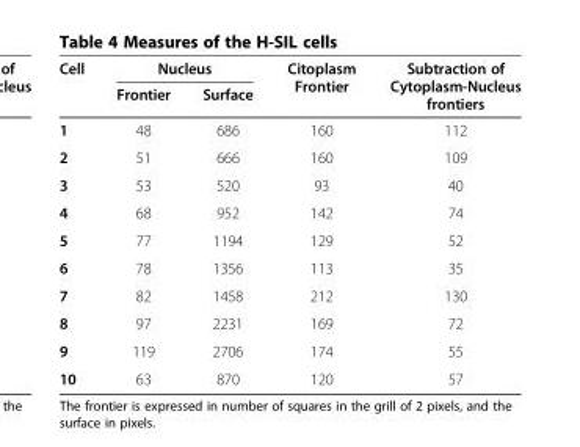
<table><thead><tr><td rowspan="2">Cell</td><td colspan="2">Nucleus</td><td rowspan="2">Citoplasm Frontier</td><td rowspan="2">Subtraction of Cytoplasm-Nucleus frontiers</td></tr><tr><td>Frontier</td><td>Surface</td></tr></thead><tbody><tr><td>1</td><td>48</td><td>686</td><td>160</td><td>112</td></tr><tr><td>2</td><td>51</td><td>666</td><td>160</td><td>109</td></tr><tr><td>3</td><td>53</td><td>520</td><td>93</td><td>40</td></tr><tr><td>4</td><td>68</td><td>952</td><td>142</td><td>74</td></tr><tr><td>5</td><td>77</td><td>1194</td><td>129</td><td>52</td></tr><tr><td>6</td><td>78</td><td>1356</td><td>113</td><td>35</td></tr><tr><td>7</td><td>82</td><td>1458</td><td>212</td><td>130</td></tr><tr><td>8</td><td>97</td><td>2231</td><td>169</td><td>72</td></tr><tr><td>9</td><td>119</td><td>2706</td><td>174</td><td>55</td></tr><tr><td>10</td><td>63</td><td>870</td><td>120</td><td>57</td></tr></tbody></table>